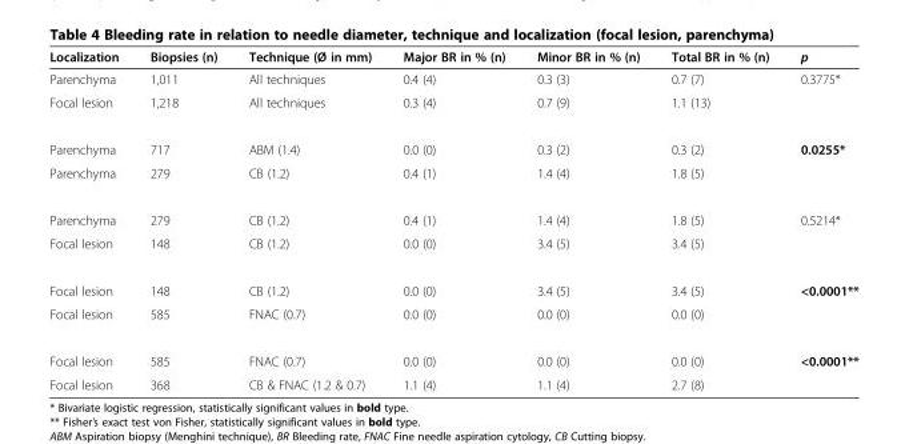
<table><thead><tr><td>Localization</td><td>Biopsies (n)</td><td>Technique (Ø in mm)</td><td>Major BR in % (n)</td><td>Minor BR in % (n)</td><td>Total BR in % (n)</td><td>p</td></tr></thead><tbody><tr><td>Parenchyma</td><td>1,011</td><td>All techniques</td><td>0.4 (4)</td><td>0.3 (3)</td><td>0.7 (7)</td><td rowspan="2">0.3775*</td></tr><tr><td>Focal lesion</td><td>1,218</td><td>All techniques</td><td>0.3 (4)</td><td>0.7 (9)</td><td>1.1 (13)</td></tr><tr><td>Parenchyma</td><td>717</td><td>ABM (1.4)</td><td>0.0 (0)</td><td>0.3 (2)</td><td>0.3 (2)</td><td rowspan="2">0.0255*</td></tr><tr><td>Parenchyma</td><td>279</td><td>CB (1.2)</td><td>0.4 (1)</td><td>1.4 (4)</td><td>1.8 (5)</td></tr><tr><td>Parenchyma</td><td>279</td><td>CB (1.2)</td><td>0.4 (1)</td><td>1.4 (4)</td><td>1.8 (5)</td><td rowspan="2">0.5214*</td></tr><tr><td>Focal lesion</td><td>148</td><td>CB (1.2)</td><td>0.0 (0)</td><td>3.4 (5)</td><td>3.4 (5)</td></tr><tr><td>Focal lesion</td><td>148</td><td>CB (1.2)</td><td>0.0 (0)</td><td>3.4 (5)</td><td>3.4 (5)</td><td rowspan="2">&lt;0.0001**</td></tr><tr><td>Focal lesion</td><td>585</td><td>FNAC (0.7)</td><td>0.0 (0)</td><td>0.0 (0)</td><td>0.0 (0)</td></tr><tr><td>Focal lesion</td><td>585</td><td>FNAC (0.7)</td><td>0.0 (0)</td><td>0.0 (0)</td><td>0.0 (0)</td><td rowspan="2">&lt;0.0001**</td></tr><tr><td>Focal lesion</td><td>368</td><td>CB &amp; FNAC (1.2 &amp; 0.7)</td><td>1.1 (4)</td><td>1.1 (4)</td><td>2.7 (8)</td></tr></tbody></table>